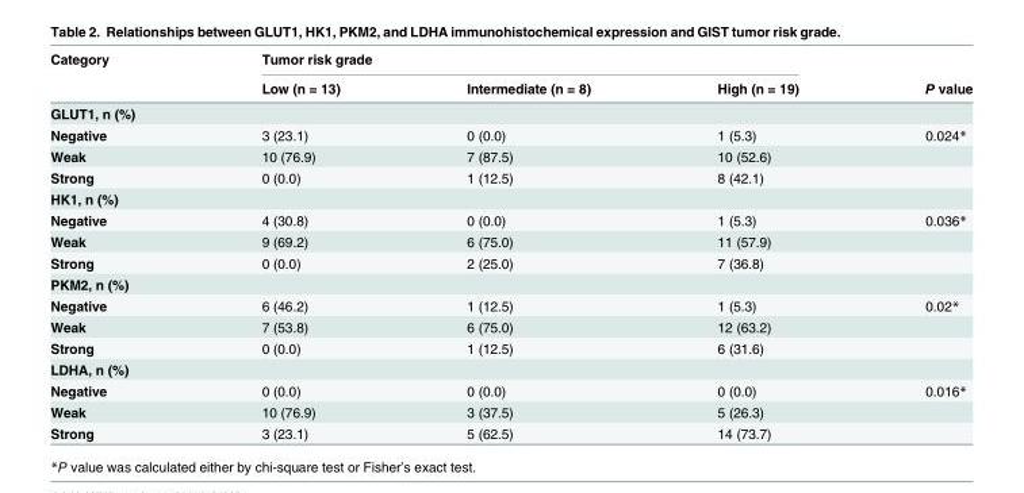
<table><thead><tr><td rowspan="2">Category</td><td colspan="3">Tumor risk grade</td><td rowspan="2">P value</td></tr><tr><td>Low (n = 13)</td><td>Intermediate (n = 8)</td><td>High (n = 19)</td></tr></thead><tbody><tr><td colspan="5">GLUT1, n (%)</td></tr><tr><td>Negative</td><td>3 (23.1)</td><td>0 (0.0)</td><td>1 (5.3)</td><td>0.024*</td></tr><tr><td>Weak</td><td>10 (76.9)</td><td>7 (87.5)</td><td>10 (52.6)</td><td></td></tr><tr><td>Strong</td><td>0 (0.0)</td><td>1 (12.5)</td><td>8 (42.1)</td><td></td></tr><tr><td colspan="5">HK1, n (%)</td></tr><tr><td>Negative</td><td>4 (30.8)</td><td>0 (0.0)</td><td>1 (5.3)</td><td>0.036*</td></tr><tr><td>Weak</td><td>9 (69.2)</td><td>6 (75.0)</td><td>11 (57.9)</td><td></td></tr><tr><td>Strong</td><td>0 (0.0)</td><td>2 (25.0)</td><td>7 (36.8)</td><td></td></tr><tr><td colspan="5">PKM2, n (%)</td></tr><tr><td>Negative</td><td>6 (46.2)</td><td>1 (12.5)</td><td>1 (5.3)</td><td>0.02*</td></tr><tr><td>Weak</td><td>7 (53.8)</td><td>6 (75.0)</td><td>12 (63.2)</td><td></td></tr><tr><td>Strong</td><td>0 (0.0)</td><td>1 (12.5)</td><td>6 (31.6)</td><td></td></tr><tr><td colspan="5">LDHA, n (%)</td></tr><tr><td>Negative</td><td>0 (0.0)</td><td>0 (0.0)</td><td>0 (0.0)</td><td>0.016*</td></tr><tr><td>Weak</td><td>10 (76.9)</td><td>3 (37.5)</td><td>5 (26.3)</td><td></td></tr><tr><td>Strong</td><td>3 (23.1)</td><td>5 (62.5)</td><td>14 (73.7)</td><td></td></tr></tbody></table>